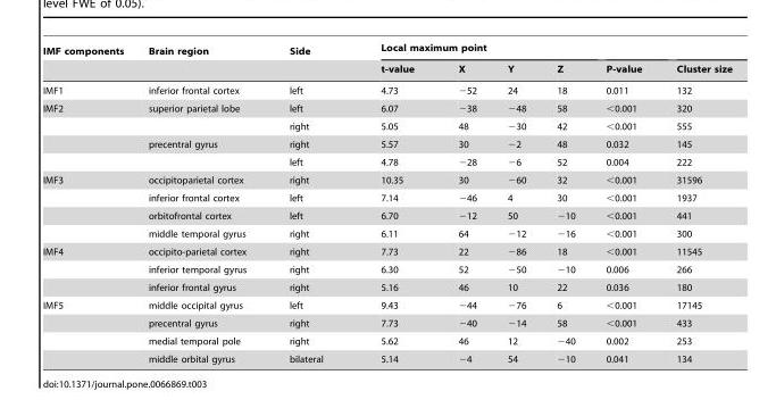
<table><thead><tr><td rowspan="2">IMF components</td><td rowspan="2">Brain region</td><td rowspan="2">Side</td><td colspan="4">Local maximum point</td><td rowspan="2">P-value</td><td rowspan="2">Cluster size</td></tr><tr><td>t-value</td><td>X</td><td>Y</td><td>Z</td></tr></thead><tbody><tr><td>IMF1</td><td>inferior frontal cortex</td><td>left</td><td>4.73</td><td>−52</td><td>24</td><td>18</td><td>0.011</td><td>132</td></tr><tr><td rowspan="4">IMF2</td><td>superior parietal lobe</td><td>left</td><td>6.07</td><td>−38</td><td>−48</td><td>58</td><td>&lt;0.001</td><td>320</td></tr><tr><td></td><td>right</td><td>5.05</td><td>48</td><td>−30</td><td>42</td><td>&lt;0.001</td><td>555</td></tr><tr><td>precentral gyrus</td><td>right</td><td>5.57</td><td>30</td><td>−2</td><td>48</td><td>0.032</td><td>145</td></tr><tr><td></td><td>left</td><td>4.78</td><td>−28</td><td>−6</td><td>52</td><td>0.004</td><td>222</td></tr><tr><td rowspan="4">IMF3</td><td>occipitoparietal cortex</td><td>right</td><td>10.35</td><td>30</td><td>−60</td><td>32</td><td>&lt;0.001</td><td>31596</td></tr><tr><td>inferior frontal cortex</td><td>left</td><td>7.14</td><td>−46</td><td>4</td><td>30</td><td>&lt;0.001</td><td>1937</td></tr><tr><td>orbitofrontal cortex</td><td>left</td><td>6.70</td><td>−12</td><td>50</td><td>−10</td><td>&lt;0.001</td><td>441</td></tr><tr><td>middle temporal gyrus</td><td>right</td><td>6.11</td><td>64</td><td>−12</td><td>−16</td><td>&lt;0.001</td><td>300</td></tr><tr><td rowspan="3">IMF4</td><td>occipito-parietal cortex</td><td>right</td><td>7.73</td><td>22</td><td>−86</td><td>18</td><td>&lt;0.001</td><td>11545</td></tr><tr><td>inferior temporal gyrus</td><td>right</td><td>6.30</td><td>52</td><td>−50</td><td>−10</td><td>0.006</td><td>266</td></tr><tr><td>inferior frontal gyrus</td><td>right</td><td>5.16</td><td>46</td><td>10</td><td>22</td><td>0.036</td><td>180</td></tr><tr><td rowspan="4">IMF5</td><td>middle occipital gyrus</td><td>left</td><td>9.43</td><td>−44</td><td>−76</td><td>6</td><td>&lt;0.001</td><td>17145</td></tr><tr><td>precentral gyrus</td><td>right</td><td>7.73</td><td>−40</td><td>−14</td><td>58</td><td>&lt;0.001</td><td>433</td></tr><tr><td>medial temporal pole</td><td>right</td><td>5.62</td><td>46</td><td>12</td><td>−40</td><td>0.002</td><td>253</td></tr><tr><td>middle orbital gyrus</td><td>bilateral</td><td>5.14</td><td>−4</td><td>54</td><td>−10</td><td>0.041</td><td>134</td></tr></tbody></table>